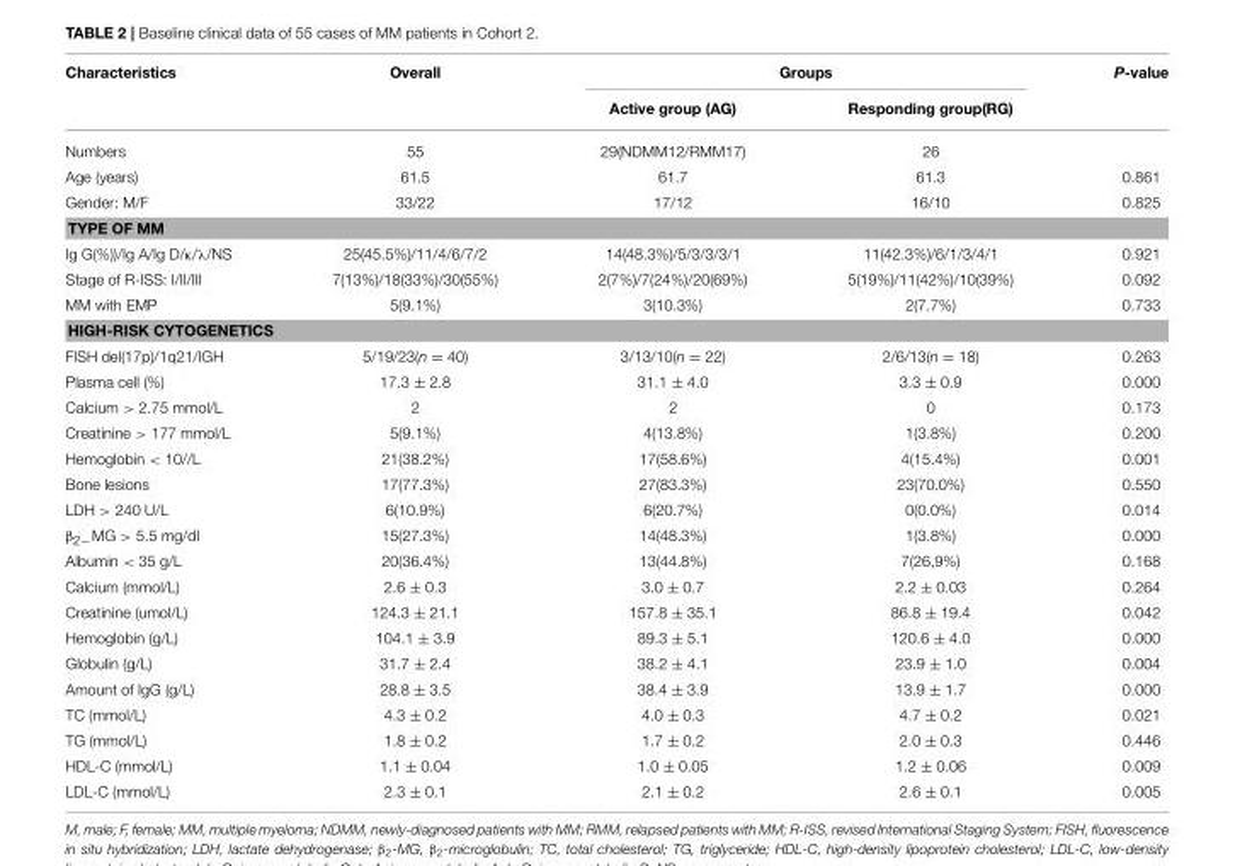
<table><thead><tr><td rowspan="2">Characteristics</td><td rowspan="2">Overall</td><td colspan="2">Groups</td><td rowspan="2">P-value</td></tr><tr><td>Active group (AG)</td><td>Responding group(RG)</td></tr></thead><tbody><tr><td>Numbers</td><td>55</td><td>29(NDMM12/RMM17)</td><td>26</td><td></td></tr><tr><td>Age (years)</td><td>61.5</td><td>61.7</td><td>61.3</td><td>0.861</td></tr><tr><td>Gender: M/F</td><td>33/22</td><td>17/12</td><td>16/10</td><td>0.825</td></tr><tr><td colspan="5">TYPE OF MM</td></tr><tr><td>Ig G(%))/Ig A/Ig D/κ/λ/NS</td><td>25(45.5%)/11/4/6/7/2</td><td>14(48.3%)/5/3/3/3/1</td><td>11(42.3%)/6/1/3/4/1</td><td>0.921</td></tr><tr><td>Stage of R-ISS: I/II/III</td><td>7(13%)/18(33%)/30(55%)</td><td>2(7%)/7(24%)/20(69%)</td><td>5(19%)/11(42%)/10(39%)</td><td>0.092</td></tr><tr><td>MM with EMP</td><td>5(9.1%)</td><td>3(10.3%)</td><td>2(7.7%)</td><td>0.733</td></tr><tr><td colspan="5">HIGH-RISK CYTOGENETICS</td></tr><tr><td>FISH del(17p)/1q21/IGH</td><td>5/19/23(n = 40)</td><td>3/13/10(n = 22)</td><td>2/6/13(n = 18)</td><td>0.263</td></tr><tr><td>Plasma cell (%)</td><td>17.3 ± 2.8</td><td>31.1 ± 4.0</td><td>3.3 ± 0.9</td><td>0.000</td></tr><tr><td>Calcium &gt; 2.75 mmol/L</td><td>2</td><td>2</td><td>0</td><td>0.173</td></tr><tr><td>Creatinine &gt; 177 mmol/L</td><td>5(9.1%)</td><td>4(13.8%)</td><td>1(3.8%)</td><td>0.200</td></tr><tr><td>Hemoglobin &lt; 10//L</td><td>21(38.2%)</td><td>17(58.6%)</td><td>4(15.4%)</td><td>0.001</td></tr><tr><td>Bone lesions</td><td>17(77.3%)</td><td>27(83.3%)</td><td>23(70.0%)</td><td>0.550</td></tr><tr><td>LDH &gt; 240 U/L</td><td>6(10.9%)</td><td>6(20.7%)</td><td>0(0.0%)</td><td>0.014</td></tr><tr><td>β<sub>2−</sub>MG &gt; 5.5 mg/dl</td><td>15(27.3%)</td><td>14(48.3%)</td><td>1(3.8%)</td><td>0.000</td></tr><tr><td>Albumin &lt; 35 g/L</td><td>20(36.4%)</td><td>13(44.8%)</td><td>7(26,9%)</td><td>0.168</td></tr><tr><td>Calcium (mmol/L)</td><td>2.6 ± 0.3</td><td>3.0 ± 0.7</td><td>2.2 ± 0.03</td><td>0.264</td></tr><tr><td>Creatinine (umol/L)</td><td>124.3 ± 21.1</td><td>157.8 ± 35.1</td><td>86.8 ± 19.4</td><td>0.042</td></tr><tr><td>Hemoglobin (g/L)</td><td>104.1 ± 3.9</td><td>89.3 ± 5.1</td><td>120.6 ± 4.0</td><td>0.000</td></tr><tr><td>Globulin (g/L)</td><td>31.7 ± 2.4</td><td>38.2 ± 4.1</td><td>23.9 ± 1.0</td><td>0.004</td></tr><tr><td>Amount of IgG (g/L)</td><td>28.8 ± 3.5</td><td>38.4 ± 3.9</td><td>13.9 ± 1.7</td><td>0.000</td></tr><tr><td>TC (mmol/L)</td><td>4.3 ± 0.2</td><td>4.0 ± 0.3</td><td>4.7 ± 0.2</td><td>0.021</td></tr><tr><td>TG (mmol/L)</td><td>1.8 ± 0.2</td><td>1.7 ± 0.2</td><td>2.0 ± 0.3</td><td>0.446</td></tr><tr><td>HDL-C (mmol/L)</td><td>1.1 ± 0.04</td><td>1.0 ± 0.05</td><td>1.2 ± 0.06</td><td>0.009</td></tr><tr><td>LDL-C (mmol/L)</td><td>2.3 ± 0.1</td><td>2.1 ± 0.2</td><td>2.6 ± 0.1</td><td>0.005</td></tr></tbody></table>